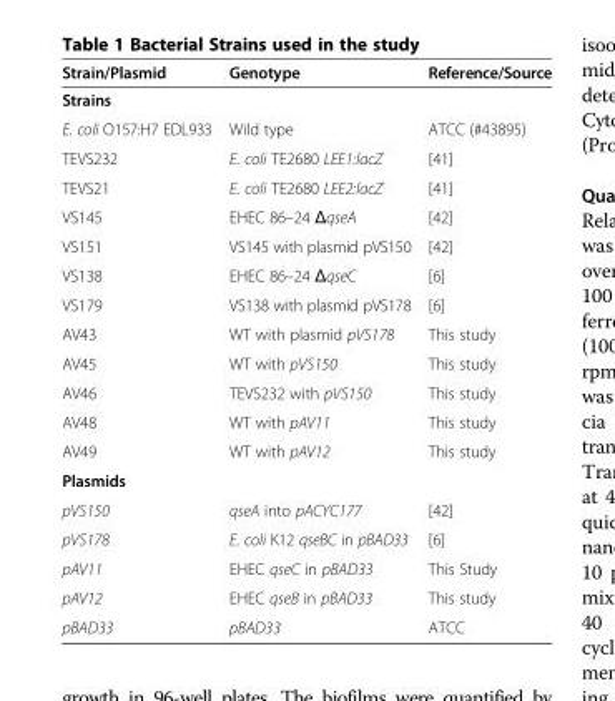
<table><thead><tr><td>Strain/Plasmid</td><td>Genotype</td><td>Reference/Source</td></tr></thead><tbody><tr><td colspan="3">Strains</td></tr><tr><td>E. coli O157:H7 EDL933</td><td>Wild type</td><td>ATCC (#43895)</td></tr><tr><td>TEVS232</td><td>E. coli TE2680 LEE1:lacZ</td><td>[41]</td></tr><tr><td>TEVS21</td><td>E. coli TE2680 LEE2:lacZ</td><td>[41]</td></tr><tr><td>VS145</td><td>EHEC 86–24 ΔqseA</td><td>[42]</td></tr><tr><td>VS151</td><td>VS145 with plasmid pVS150</td><td>[42]</td></tr><tr><td>VS138</td><td>EHEC 86–24 ΔqseC</td><td>[6]</td></tr><tr><td>VS179</td><td>VS138 with plasmid pVS178</td><td>[6]</td></tr><tr><td>AV43</td><td>WT with plasmid pVS178</td><td>This study</td></tr><tr><td>AV45</td><td>WT with pVS150</td><td>This study</td></tr><tr><td>AV46</td><td>TEVS232 with pVS150</td><td>This study</td></tr><tr><td>AV48</td><td>WT with pAV11</td><td>This study</td></tr><tr><td>AV49</td><td>WT with pAV12</td><td>This study</td></tr><tr><td colspan="3">Plasmids</td></tr><tr><td>pVS150</td><td>qseA into pACYC177</td><td>[42]</td></tr><tr><td>pVS178</td><td>E. coli K12 qseBC in pBAD33</td><td>[6]</td></tr><tr><td>pAV11</td><td>EHEC qseC in pBAD33</td><td>This Study</td></tr><tr><td>pAV12</td><td>EHEC qseB in pBAD33</td><td>This study</td></tr><tr><td>pBAD33</td><td>pBAD33</td><td>ATCC</td></tr></tbody></table>